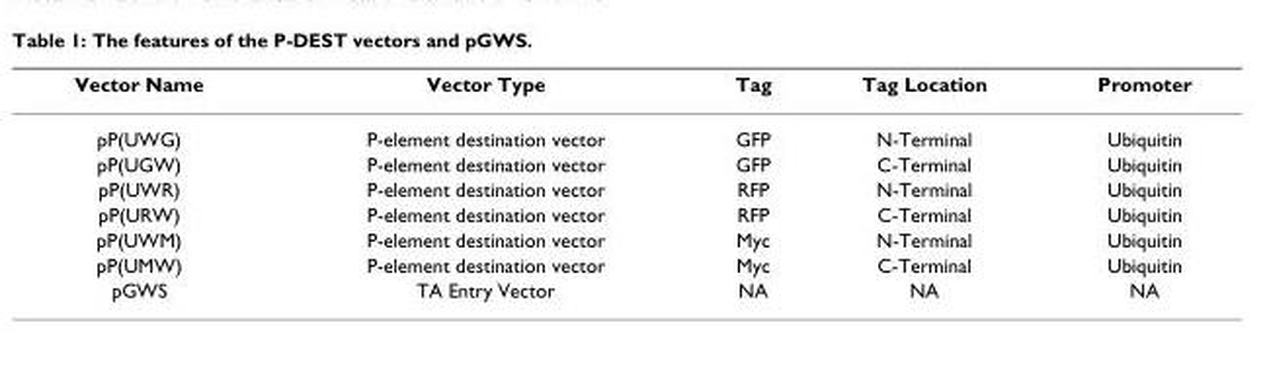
<table><thead><tr><td>Vector Name</td><td>Vector Type</td><td>Tag</td><td>Tag Location</td><td>Promoter</td></tr></thead><tbody><tr><td>pP(UWG)</td><td>P-element destination vector</td><td>GFP</td><td>N-Terminal</td><td>Ubiquitin</td></tr><tr><td>pP(UGW)</td><td>P-element destination vector</td><td>GFP</td><td>C-Terminal</td><td>Ubiquitin</td></tr><tr><td>pP(UWR)</td><td>P-element destination vector</td><td>RFP</td><td>N-Terminal</td><td>Ubiquitin</td></tr><tr><td>pP(URW)</td><td>P-element destination vector</td><td>RFP</td><td>C-Terminal</td><td>Ubiquitin</td></tr><tr><td>pP(UWM)</td><td>P-element destination vector</td><td>Myc</td><td>N-Terminal</td><td>Ubiquitin</td></tr><tr><td>pP(UMW)</td><td>P-element destination vector</td><td>Myc</td><td>C-Terminal</td><td>Ubiquitin</td></tr><tr><td>pGWS</td><td>TA Entry Vector</td><td>NA</td><td>NA</td><td>NA</td></tr></tbody></table>